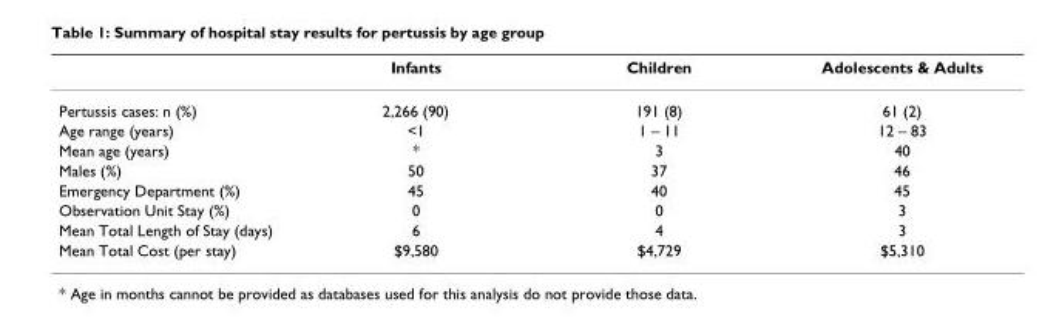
<table><thead><tr><td></td><td>Infants</td><td>Children</td><td>Adolescents &amp; Adults</td></tr></thead><tbody><tr><td>Pertussis cases: n (%)</td><td>2,266 (90)</td><td>191 (8)</td><td>61 (2)</td></tr><tr><td>Age range (years)</td><td>&lt;1</td><td>1 – 11</td><td>12 – 83</td></tr><tr><td>Mean age (years)</td><td>*</td><td>3</td><td>40</td></tr><tr><td>Males (%)</td><td>50</td><td>37</td><td>46</td></tr><tr><td>Emergency Department (%)</td><td>45</td><td>40</td><td>45</td></tr><tr><td>Observation Unit Stay (%)</td><td>0</td><td>0</td><td>3</td></tr><tr><td>Mean Total Length of Stay (days)</td><td>6</td><td>4</td><td>3</td></tr><tr><td>Mean Total Cost (per stay)</td><td>$9,580</td><td>$4,729</td><td>$5,310</td></tr></tbody></table>